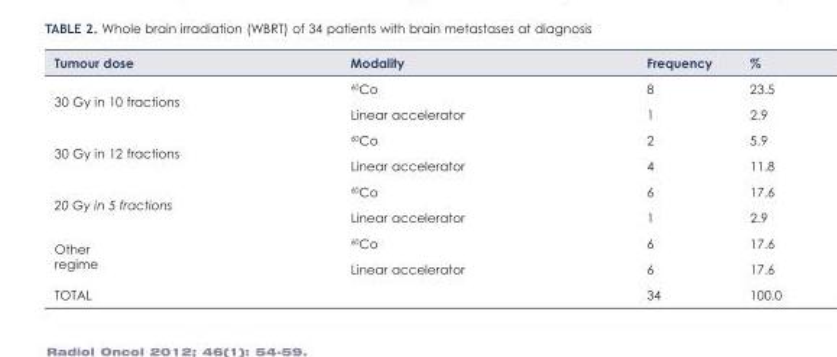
<table><thead><tr><td>Tumour dose</td><td>Modality</td><td>Frequency</td><td>%</td></tr></thead><tbody><tr><td rowspan="2">30 Gy in 10 fractions</td><td><sup>60</sup>Co</td><td>8</td><td>23.5</td></tr><tr><td>Linear accelerator</td><td>1</td><td>2.9</td></tr><tr><td rowspan="2">30 Gy in 12 fractions</td><td><sup>60</sup>Co</td><td>2</td><td>5.9</td></tr><tr><td>Linear accelerator</td><td>4</td><td>11.8</td></tr><tr><td rowspan="2">20 Gy in 5 fractions</td><td><sup>60</sup>Co</td><td>6</td><td>17.6</td></tr><tr><td>Linear accelerator</td><td>1</td><td>2.9</td></tr><tr><td rowspan="2">Other regime</td><td><sup>60</sup>Co</td><td>6</td><td>17.6</td></tr><tr><td>Linear accelerator</td><td>6</td><td>17.6</td></tr><tr><td>TOTAL</td><td></td><td>34</td><td>100.0</td></tr></tbody></table>